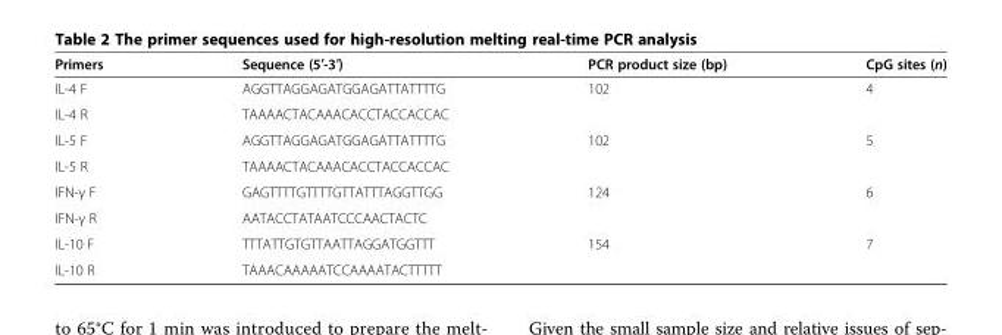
<table><thead><tr><td>Primers</td><td>Sequence (5′-3′)</td><td>PCR product size (bp)</td><td>CpG sites (n)</td></tr></thead><tbody><tr><td>IL-4 F</td><td>AGGTTAGGAGATGGAGATTATTTTG</td><td>102</td><td>4</td></tr><tr><td>IL-4 R</td><td>TAAAACTACAAACACCTACCACCAC</td><td></td><td></td></tr><tr><td>IL-5 F</td><td>AGGTTAGGAGATGGAGATTATTTTG</td><td>102</td><td>5</td></tr><tr><td>IL-5 R</td><td>TAAAACTACAAACACCTACCACCAC</td><td></td><td></td></tr><tr><td>IFN-γ F</td><td>GAGTTTTGTTTTGTTATTTAGGTTGG</td><td>124</td><td>6</td></tr><tr><td>IFN-γ R</td><td>AATACCTATAATCCCAACTACTC</td><td></td><td></td></tr><tr><td>IL-10 F</td><td>TTTATTGTGTTAATTAGGATGGTTT</td><td>154</td><td>7</td></tr><tr><td>IL-10 R</td><td>TAAACAAAAATCCAAAATACTTTTT</td><td></td><td></td></tr></tbody></table>